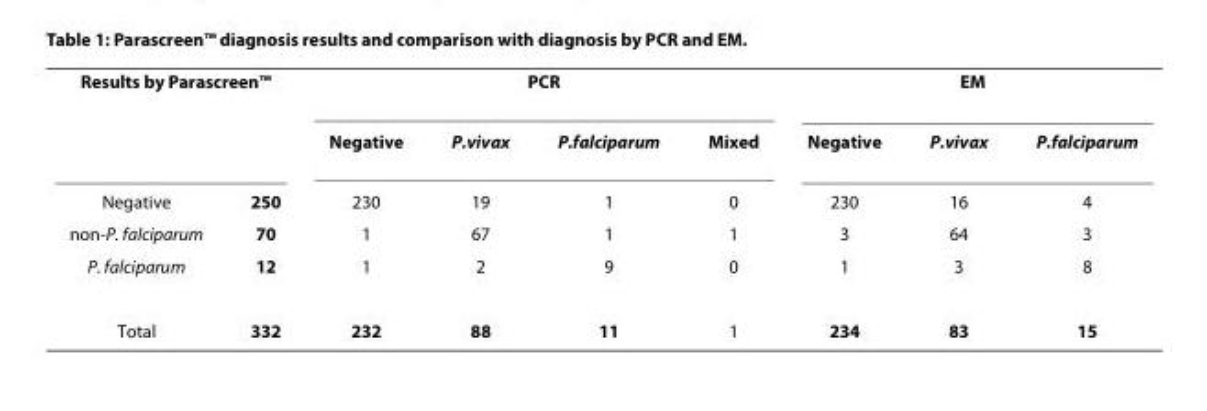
<table><tbody><tr><td colspan="2">Results by Parascreen™</td><td colspan="4">PCR</td><td colspan="3">EM</td></tr><tr><td></td><td></td><td>Negative</td><td>P.vivax</td><td>P.falciparum</td><td>Mixed</td><td>Negative</td><td>P.vivax</td><td>P.falciparum</td></tr><tr><td>Negative</td><td>250</td><td>230</td><td>19</td><td>1</td><td>0</td><td>230</td><td>16</td><td>4</td></tr><tr><td>non-P. falciparum</td><td>70</td><td>1</td><td>67</td><td>1</td><td>1</td><td>3</td><td>64</td><td>3</td></tr><tr><td>P. falciparum</td><td>12</td><td>1</td><td>2</td><td>9</td><td>0</td><td>1</td><td>3</td><td>8</td></tr><tr><td>Total</td><td>332</td><td>232</td><td>88</td><td>11</td><td>1</td><td>234</td><td>83</td><td>15</td></tr></tbody></table>